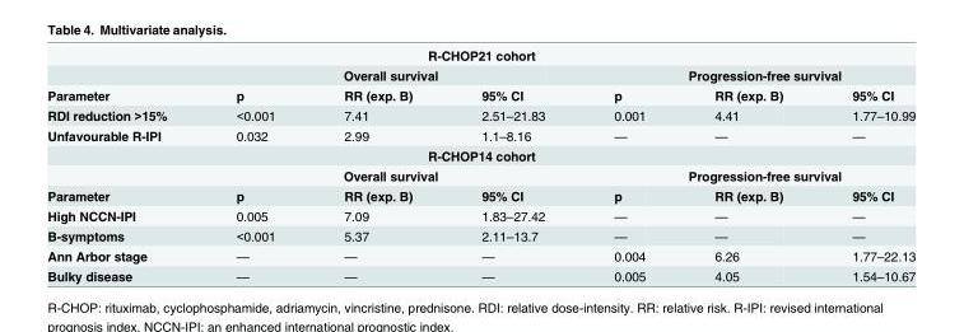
<table><tbody><tr><td colspan="7">R-CHOP21 cohort</td></tr><tr><td></td><td colspan="3">Overall survival</td><td colspan="3">Progression-free survival</td></tr><tr><td>Parameter</td><td>p</td><td>RR (exp. B)</td><td>95% CI</td><td>p</td><td>RR (exp. B)</td><td>95% CI</td></tr><tr><td>RDI reduction &gt;15%</td><td>&lt;0.001</td><td>7.41</td><td>2.51–21.83</td><td>0.001</td><td>4.41</td><td>1.77–10.99</td></tr><tr><td>Unfavourable R-IPI</td><td>0.032</td><td>2.99</td><td>1.1–8.16</td><td>—</td><td>—</td><td>—</td></tr><tr><td colspan="7">R-CHOP14 cohort</td></tr><tr><td></td><td colspan="3">Overall survival</td><td colspan="3">Progression-free survival</td></tr><tr><td>Parameter</td><td>p</td><td>RR (exp. B)</td><td>95% CI</td><td>p</td><td>RR (exp. B)</td><td>95% CI</td></tr><tr><td>High NCCN-IPI</td><td>0.005</td><td>7.09</td><td>1.83–27.42</td><td>—</td><td>—</td><td>—</td></tr><tr><td>B-symptoms</td><td>&lt;0.001</td><td>5.37</td><td>2.11–13.7</td><td>—</td><td>—</td><td>—</td></tr><tr><td>Ann Arbor stage</td><td>—</td><td>—</td><td>—</td><td>0.004</td><td>6.26</td><td>1.77–22.13</td></tr><tr><td>Bulky disease</td><td>—</td><td>—</td><td>—</td><td>0.005</td><td>4.05</td><td>1.54–10.67</td></tr></tbody></table>